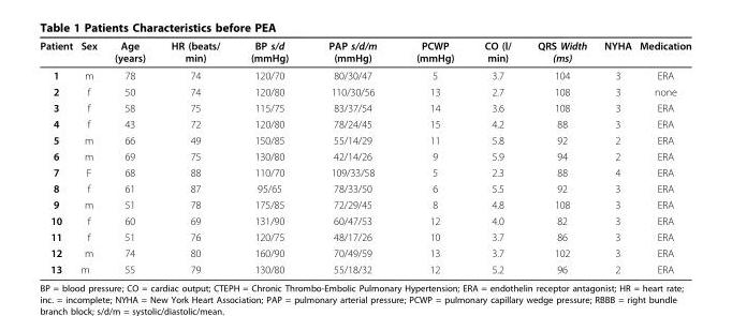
<table><thead><tr><td>Patient</td><td>Sex</td><td>Age (years)</td><td>HR (beats/ min)</td><td>BP s/d (mmHg)</td><td>PAP s/d/m (mmHg)</td><td>PCWP (mmHg)</td><td>CO (l/ min)</td><td>QRS Width (ms)</td><td>NYHA</td><td>Medication</td></tr></thead><tbody><tr><td>1</td><td>m</td><td>78</td><td>74</td><td>120/70</td><td>80/30/47</td><td>5</td><td>3.7</td><td>104</td><td>3</td><td>ERA</td></tr><tr><td>2</td><td>f</td><td>50</td><td>74</td><td>120/80</td><td>110/30/56</td><td>13</td><td>2.7</td><td>108</td><td>3</td><td>none</td></tr><tr><td>3</td><td>f</td><td>58</td><td>75</td><td>115/75</td><td>83/37/54</td><td>14</td><td>3.6</td><td>108</td><td>3</td><td>ERA</td></tr><tr><td>4</td><td>f</td><td>43</td><td>72</td><td>120/80</td><td>78/24/45</td><td>15</td><td>4.2</td><td>88</td><td>3</td><td>ERA</td></tr><tr><td>5</td><td>m</td><td>66</td><td>49</td><td>150/85</td><td>55/14/29</td><td>11</td><td>5.8</td><td>92</td><td>2</td><td>ERA</td></tr><tr><td>6</td><td>m</td><td>69</td><td>75</td><td>130/80</td><td>42/14/26</td><td>9</td><td>5.9</td><td>94</td><td>2</td><td>ERA</td></tr><tr><td>7</td><td>F</td><td>68</td><td>88</td><td>110/70</td><td>109/33/58</td><td>5</td><td>2.3</td><td>88</td><td>4</td><td>ERA</td></tr><tr><td>8</td><td>f</td><td>61</td><td>87</td><td>95/65</td><td>78/33/50</td><td>6</td><td>5.5</td><td>92</td><td>3</td><td>ERA</td></tr><tr><td>9</td><td>m</td><td>51</td><td>78</td><td>175/85</td><td>72/29/45</td><td>8</td><td>4.8</td><td>108</td><td>3</td><td>ERA</td></tr><tr><td>10</td><td>f</td><td>60</td><td>69</td><td>131/90</td><td>60/47/53</td><td>12</td><td>4.0</td><td>82</td><td>3</td><td>ERA</td></tr><tr><td>11</td><td>f</td><td>51</td><td>76</td><td>120/75</td><td>48/17/26</td><td>10</td><td>3.7</td><td>86</td><td>3</td><td>ERA</td></tr><tr><td>12</td><td>m</td><td>74</td><td>80</td><td>160/90</td><td>70/49/59</td><td>13</td><td>3.7</td><td>102</td><td>3</td><td>ERA</td></tr><tr><td>13</td><td>m</td><td>55</td><td>79</td><td>130/80</td><td>55/18/32</td><td>12</td><td>5.2</td><td>96</td><td>2</td><td>ERA</td></tr></tbody></table>